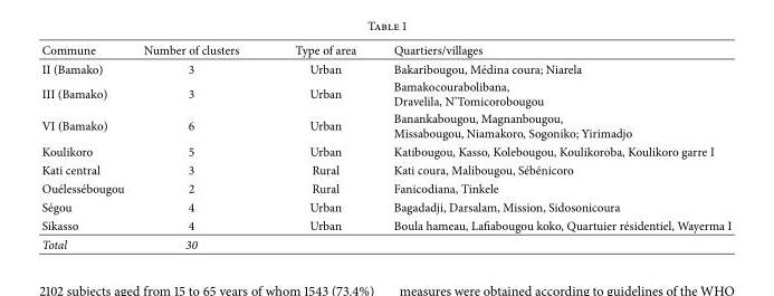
<table><thead><tr><td>Commune</td><td>Number of clusters</td><td>Type of area</td><td>Quartiers/villages</td></tr></thead><tbody><tr><td>II (Bamako)</td><td>3</td><td>Urban</td><td>Bakaribougou, M´edina coura; Niarela</td></tr><tr><td>III (Bamako)</td><td>3</td><td>Urban</td><td>Bamakocourabolibana, Dravelila, N’Tomicorobougou</td></tr><tr><td>VI (Bamako)</td><td>6</td><td>Urban</td><td>Banankabougou, Magnanbougou, Missabougou, Niamakoro, Sogoniko; Yirimadjo</td></tr><tr><td>Koulikoro</td><td>5</td><td>Urban</td><td>Katibougou, Kasso, Kolebougou, Koulikoroba, Koulikoro garre I</td></tr><tr><td>Kati central</td><td>3</td><td>Rural</td><td>Kati coura, Malibougou, S´eb´enicoro</td></tr><tr><td>Ou´eless´ebougou</td><td>2</td><td>Rural</td><td>Fanicodiana, Tinkele</td></tr><tr><td>S´egou</td><td>4</td><td>Urban</td><td>Bagadadji, Darsalam, Mission, Sidosonicoura</td></tr><tr><td>Sikasso</td><td>4</td><td>Urban</td><td>Boula hameau, Lafiabougou koko, Quartuier r´esidentiel, Wayerma I</td></tr><tr><td>Total</td><td>30</td><td></td><td></td></tr></tbody></table>